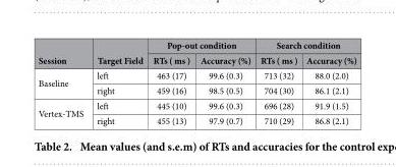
<table><thead><tr><td rowspan="2">Session</td><td rowspan="2">Target Field</td><td colspan="2">Pop-out condition</td><td colspan="2">Search condition</td></tr><tr><td>RTs ( ms )</td><td>Accuracy (%)</td><td>RTs ( ms )</td><td>Accuracy (%)</td></tr></thead><tbody><tr><td rowspan="2">Baseline</td><td>left</td><td>463 (17)</td><td>99.6 (0.3)</td><td>713 (32)</td><td>88.0 (2.0)</td></tr><tr><td>right</td><td>459 (16)</td><td>98.5 (0.5)</td><td>704 (30)</td><td>86.1 (2.1)</td></tr><tr><td rowspan="2">Vertex-TMS</td><td>left</td><td>445 (10)</td><td>99.6 (0.3)</td><td>696 (28)</td><td>91.9 (1.5)</td></tr><tr><td>right</td><td>455 (13)</td><td>97.9 (0.7)</td><td>710 (29)</td><td>86.8 (2.1)</td></tr></tbody></table>